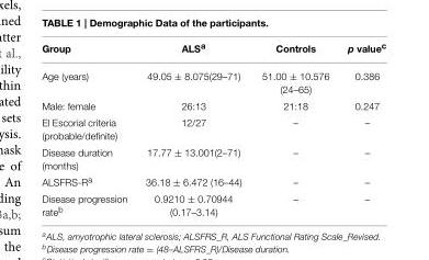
<table><thead><tr><td>Group</td><td>ALS<sup>a</sup></td><td>Controls</td><td>p value<sup>c</sup></td></tr></thead><tbody><tr><td>Age (years)</td><td>49.05 ± 8.075(29–71)</td><td>51.00 ± 10.576 (24–65)</td><td>0.386</td></tr><tr><td>Male: female</td><td>26:13</td><td>21:18</td><td>0.247</td></tr><tr><td>El Escorial criteria (probable/definite)</td><td>12/27</td><td>–</td><td>–</td></tr><tr><td>Disease duration (months)</td><td>17.77 ± 13.001(2–71)</td><td>–</td><td>–</td></tr><tr><td>ALSFRS-R<sup>a</sup></td><td>36.18 ± 6.472 (16–44)</td><td>–</td><td>–</td></tr><tr><td>Disease progression rate<sup>b</sup></td><td>0.9210 ± 0.70944 (0.17–3.14)</td><td>–</td><td>–</td></tr></tbody></table>